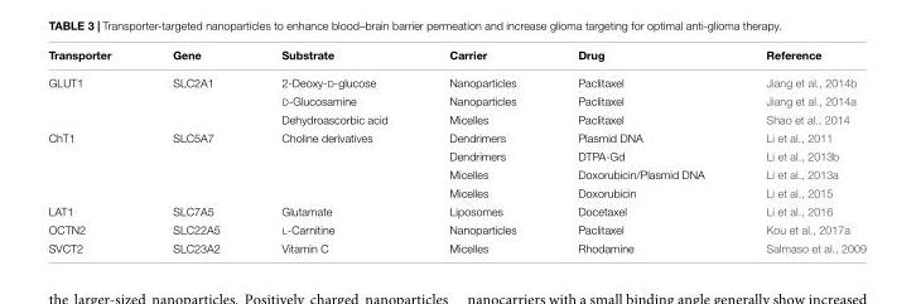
<table><thead><tr><td>Transporter</td><td>Gene</td><td>Substrate</td><td>Carrier</td><td>Drug</td><td>Reference</td></tr></thead><tbody><tr><td rowspan="3">GLUT1</td><td>SLC2A1</td><td>2-Deoxy-D-glucose</td><td>Nanoparticles</td><td>Paclitaxel</td><td>Jiang et al., 2014b</td></tr><tr><td></td><td>D-Glucosamine</td><td>Nanoparticles</td><td>Paclitaxel</td><td>Jiang et al., 2014a</td></tr><tr><td></td><td>Dehydroascorbic acid</td><td>Micelles</td><td>Paclitaxel</td><td>Shao et al., 2014</td></tr><tr><td rowspan="4">ChT1</td><td>SLC5A7</td><td>Choline derivatives</td><td>Dendrimers</td><td>Plasmid DNA</td><td>Li et al., 2011</td></tr><tr><td></td><td></td><td>Dendrimers</td><td>DTPA-Gd</td><td>Li et al., 2013b</td></tr><tr><td></td><td></td><td>Micelles</td><td>Doxorubicin/Plasmid DNA</td><td>Li et al., 2013a</td></tr><tr><td></td><td></td><td>Micelles</td><td>Doxorubicin</td><td>Li et al., 2015</td></tr><tr><td>LAT1</td><td>SLC7A5</td><td>Glutamate</td><td>Liposomes</td><td>Docetaxel</td><td>Li et al., 2016</td></tr><tr><td>OCTN2</td><td>SLC22A5</td><td>L-Carnitine</td><td>Nanoparticles</td><td>Paclitaxel</td><td>Kou et al., 2017a</td></tr><tr><td>SVCT2</td><td>SLC23A2</td><td>Vitamin C</td><td>Micelles</td><td>Rhodamine</td><td>Salmaso et al., 2009</td></tr></tbody></table>